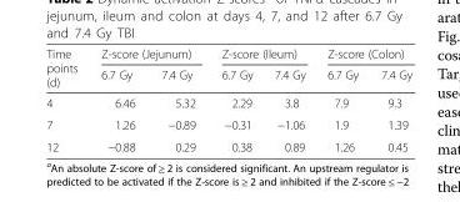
<table><thead><tr><td rowspan="2">Time points (d)</td><td colspan="2">Z-score (Jejunum)</td><td colspan="2">Z-score (Ileum)</td><td colspan="2">Z-score (Colon)</td></tr><tr><td>6.7 Gy</td><td>7.4 Gy</td><td>6.7 Gy</td><td>7.4 Gy</td><td>6.7 Gy</td><td>7.4 Gy</td></tr></thead><tbody><tr><td>4</td><td>6.46</td><td>5.32</td><td>2.29</td><td>3.8</td><td>7.9</td><td>9.3</td></tr><tr><td>7</td><td>1.26</td><td>−0.89</td><td>−0.31</td><td>−1.06</td><td>1.9</td><td>1.39</td></tr><tr><td>12</td><td>−0.88</td><td>0.29</td><td>0.38</td><td>0.89</td><td>1.26</td><td>0.45</td></tr></tbody></table>